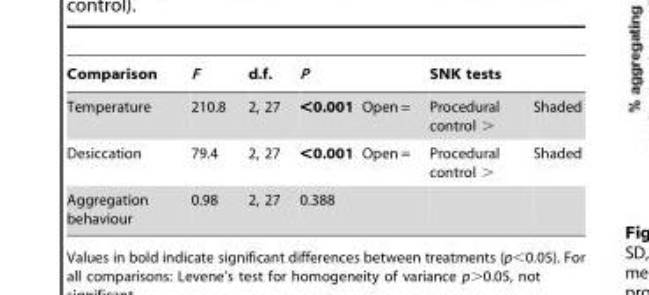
<table><thead><tr><td>Comparison</td><td>F</td><td>d.f.</td><td>P</td><td></td><td>SNK tests</td><td></td></tr></thead><tbody><tr><td>Temperature</td><td>210.8</td><td>2, 27</td><td>&lt;0.001</td><td>Open =</td><td>Procedural control &gt;</td><td>Shaded</td></tr><tr><td>Desiccation</td><td>79.4</td><td>2, 27</td><td>&lt;0.001</td><td>Open =</td><td>Procedural control &gt;</td><td>Shaded</td></tr><tr><td>Aggregation behaviour</td><td>0.98</td><td>2, 27</td><td>0.388</td><td></td><td></td><td></td></tr></tbody></table>